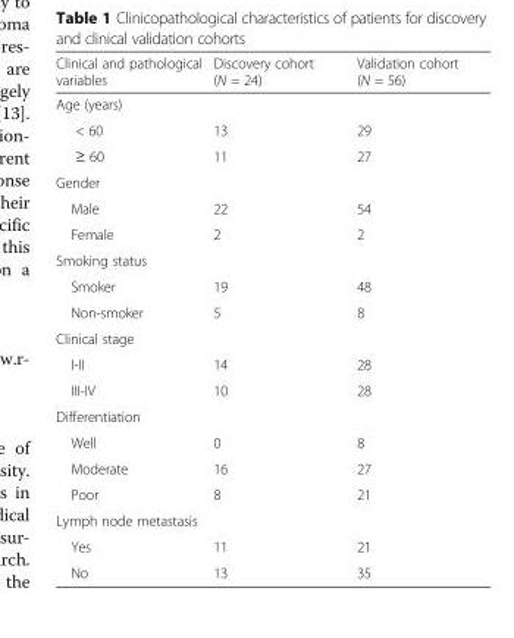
<table><thead><tr><td>Clinical and pathological variables</td><td>Discovery cohort (N = 24)</td><td>Validation cohort (N = 56)</td></tr></thead><tbody><tr><td colspan="3">Age (years)</td></tr><tr><td>&lt; 60</td><td>13</td><td>29</td></tr><tr><td>≥ 60</td><td>11</td><td>27</td></tr><tr><td colspan="3">Gender</td></tr><tr><td>Male</td><td>22</td><td>54</td></tr><tr><td>Female</td><td>2</td><td>2</td></tr><tr><td colspan="3">Smoking status</td></tr><tr><td>Smoker</td><td>19</td><td>48</td></tr><tr><td>Non-smoker</td><td>5</td><td>8</td></tr><tr><td colspan="3">Clinical stage</td></tr><tr><td>I-II</td><td>14</td><td>28</td></tr><tr><td>III-IV</td><td>10</td><td>28</td></tr><tr><td colspan="3">Differentiation</td></tr><tr><td>Well</td><td>0</td><td>8</td></tr><tr><td>Moderate</td><td>16</td><td>27</td></tr><tr><td>Poor</td><td>8</td><td>21</td></tr><tr><td colspan="3">Lymph node metastasis</td></tr><tr><td>Yes</td><td>11</td><td>21</td></tr><tr><td>No</td><td>13</td><td>35</td></tr></tbody></table>